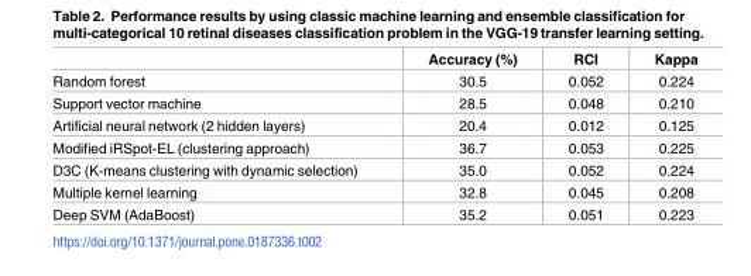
<table><thead><tr><td></td><td>Accuracy (%)</td><td>RCI</td><td>Kappa</td></tr></thead><tbody><tr><td>Random forest</td><td>30.5</td><td>0.052</td><td>0.224</td></tr><tr><td>Support vector machine</td><td>28.5</td><td>0.048</td><td>0.210</td></tr><tr><td>Artificial neural network (2 hidden layers)</td><td>20.4</td><td>0.012</td><td>0.125</td></tr><tr><td>Modified iRSpot-EL (clustering approach)</td><td>36.7</td><td>0.053</td><td>0.225</td></tr><tr><td>D3C (K-means clustering with dynamic selection)</td><td>35.0</td><td>0.052</td><td>0.224</td></tr><tr><td>Multiple kernel learning</td><td>32.8</td><td>0.045</td><td>0.208</td></tr><tr><td>Deep SVM (AdaBoost)</td><td>35.2</td><td>0.051</td><td>0.223</td></tr></tbody></table>